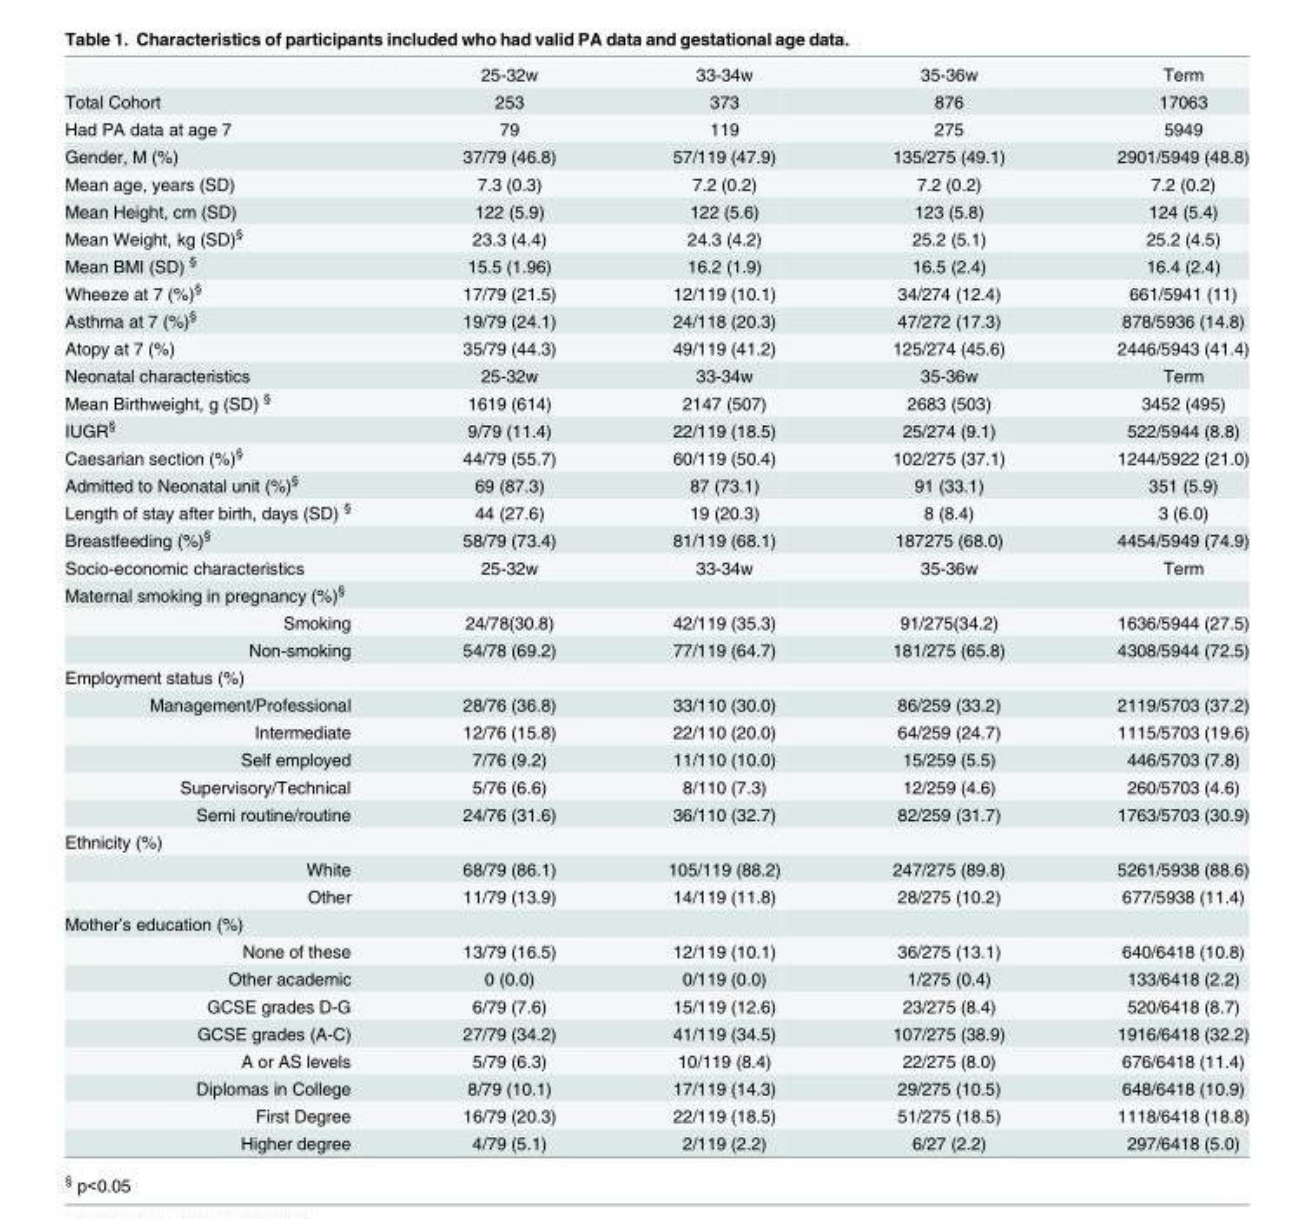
<table><thead><tr><td></td><td>25-32w</td><td>33-34w</td><td>35-36w</td><td>Term</td></tr></thead><tbody><tr><td>Total Cohort</td><td>253</td><td>373</td><td>876</td><td>17063</td></tr><tr><td>Had PA data at age 7</td><td>79</td><td>119</td><td>275</td><td>5949</td></tr><tr><td>Gender, M (%)</td><td>37/79 (46.8)</td><td>57/119 (47.9)</td><td>135/275 (49.1)</td><td>2901/5949 (48.8)</td></tr><tr><td>Mean age, years (SD)</td><td>7.3 (0.3)</td><td>7.2 (0.2)</td><td>7.2 (0.2)</td><td>7.2 (0.2)</td></tr><tr><td>Mean Height, cm (SD)</td><td>122 (5.9)</td><td>122 (5.6)</td><td>123 (5.8)</td><td>124 (5.4)</td></tr><tr><td>Mean Weight, kg (SD)<sup>§</sup></td><td>23.3 (4.4)</td><td>24.3 (4.2)</td><td>25.2 (5.1)</td><td>25.2 (4.5)</td></tr><tr><td>Mean BMI (SD) <sup>§</sup></td><td>15.5 (1.96)</td><td>16.2 (1.9)</td><td>16.5 (2.4)</td><td>16.4 (2.4)</td></tr><tr><td>Wheeze at 7 (%)<sup>§</sup></td><td>17/79 (21.5)</td><td>12/119 (10.1)</td><td>34/274 (12.4)</td><td>661/5941 (11)</td></tr><tr><td>Asthma at 7 (%)<sup>§</sup></td><td>19/79 (24.1)</td><td>24/118 (20.3)</td><td>47/272 (17.3)</td><td>878/5936 (14.8)</td></tr><tr><td>Atopy at 7 (%)</td><td>35/79 (44.3)</td><td>49/119 (41.2)</td><td>125/274 (45.6)</td><td>2446/5943 (41.4)</td></tr><tr><td>Neonatal characteristics</td><td>25-32w</td><td>33-34w</td><td>35-36w</td><td>Term</td></tr><tr><td>Mean Birthweight, g (SD) <sup>§</sup></td><td>1619 (614)</td><td>2147 (507)</td><td>2683 (503)</td><td>3452 (495)</td></tr><tr><td>IUGR<sup>§</sup></td><td>9/79 (11.4)</td><td>22/119 (18.5)</td><td>25/274 (9.1)</td><td>522/5944 (8.8)</td></tr><tr><td>Caesarian section (%)<sup>§</sup></td><td>44/79 (55.7)</td><td>60/119 (50.4)</td><td>102/275 (37.1)</td><td>1244/5922 (21.0)</td></tr><tr><td>Admitted to Neonatal unit (%)<sup>§</sup></td><td>69 (87.3)</td><td>87 (73.1)</td><td>91 (33.1)</td><td>351 (5.9)</td></tr><tr><td>Length of stay after birth, days (SD) <sup>§</sup></td><td>44 (27.6)</td><td>19 (20.3)</td><td>8 (8.4)</td><td>3 (6.0)</td></tr><tr><td>Breastfeeding (%)<sup>§</sup></td><td>58/79 (73.4)</td><td>81/119 (68.1)</td><td>187275 (68.0)</td><td>4454/5949 (74.9)</td></tr><tr><td>Socio-economic characteristics</td><td>25-32w</td><td>33-34w</td><td>35-36w</td><td>Term</td></tr><tr><td colspan="5">Maternal smoking in pregnancy (%)<sup>§</sup></td></tr><tr><td>Smoking</td><td>24/78(30.8)</td><td>42/119 (35.3)</td><td>91/275(34.2)</td><td>1636/5944 (27.5)</td></tr><tr><td>Non-smoking</td><td>54/78 (69.2)</td><td>77/119 (64.7)</td><td>181/275 (65.8)</td><td>4308/5944 (72.5)</td></tr><tr><td colspan="5">Employment status (%)</td></tr><tr><td>Management/Professional</td><td>28/76 (36.8)</td><td>33/110 (30.0)</td><td>86/259 (33.2)</td><td>2119/5703 (37.2)</td></tr><tr><td>Intermediate</td><td>12/76 (15.8)</td><td>22/110 (20.0)</td><td>64/259 (24.7)</td><td>1115/5703 (19.6)</td></tr><tr><td>Self employed</td><td>7/76 (9.2)</td><td>11/110 (10.0)</td><td>15/259 (5.5)</td><td>446/5703 (7.8)</td></tr><tr><td>Supervisory/Technical</td><td>5/76 (6.6)</td><td>8/110 (7.3)</td><td>12/259 (4.6)</td><td>260/5703 (4.6)</td></tr><tr><td>Semi routine/routine</td><td>24/76 (31.6)</td><td>36/110 (32.7)</td><td>82/259 (31.7)</td><td>1763/5703 (30.9)</td></tr><tr><td colspan="5">Ethnicity (%)</td></tr><tr><td>White</td><td>68/79 (86.1)</td><td>105/119 (88.2)</td><td>247/275 (89.8)</td><td>5261/5938 (88.6)</td></tr><tr><td>Other</td><td>11/79 (13.9)</td><td>14/119 (11.8)</td><td>28/275 (10.2)</td><td>677/5938 (11.4)</td></tr><tr><td colspan="5">Mother’s education (%)</td></tr><tr><td>None of these</td><td>13/79 (16.5)</td><td>12/119 (10.1)</td><td>36/275 (13.1)</td><td>640/6418 (10.8)</td></tr><tr><td>Other academic</td><td>0 (0.0)</td><td>0/119 (0.0)</td><td>1/275 (0.4)</td><td>133/6418 (2.2)</td></tr><tr><td>GCSE grades D-G</td><td>6/79 (7.6)</td><td>15/119 (12.6)</td><td>23/275 (8.4)</td><td>520/6418 (8.7)</td></tr><tr><td>GCSE grades (A-C)</td><td>27/79 (34.2)</td><td>41/119 (34.5)</td><td>107/275 (38.9)</td><td>1916/6418 (32.2)</td></tr><tr><td>A or AS levels</td><td>5/79 (6.3)</td><td>10/119 (8.4)</td><td>22/275 (8.0)</td><td>676/6418 (11.4)</td></tr><tr><td>Diplomas in College</td><td>8/79 (10.1)</td><td>17/119 (14.3)</td><td>29/275 (10.5)</td><td>648/6418 (10.9)</td></tr><tr><td>First Degree</td><td>16/79 (20.3)</td><td>22/119 (18.5)</td><td>51/275 (18.5)</td><td>1118/6418 (18.8)</td></tr><tr><td>Higher degree</td><td>4/79 (5.1)</td><td>2/119 (2.2)</td><td>6/27 (2.2)</td><td>297/6418 (5.0)</td></tr></tbody></table>